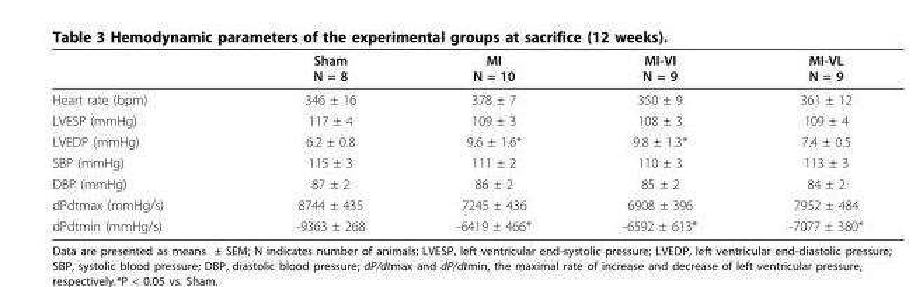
<table><thead><tr><td></td><td>Sham N = 8</td><td>MI N = 10</td><td>MI-VI N = 9</td><td>MI-VL N = 9</td></tr></thead><tbody><tr><td>Heart rate (bpm)</td><td>346 ± 16</td><td>378 ± 7</td><td>350 ± 9</td><td>361 ± 12</td></tr><tr><td>LVESP (mmHg)</td><td>117 ± 4</td><td>109 ± 3</td><td>108 ± 3</td><td>109 ± 4</td></tr><tr><td>LVEDP (mmHg)</td><td>6.2 ± 0.8</td><td>9.6 ± 1.6*</td><td>9.8 ± 1.3*</td><td>7.4 ± 0.5</td></tr><tr><td>SBP (mmHg)</td><td>115 ± 3</td><td>111 ± 2</td><td>110 ± 3</td><td>113 ± 3</td></tr><tr><td>DBP (mmHg)</td><td>87 ± 2</td><td>86 ± 2</td><td>85 ± 2</td><td>84 ± 2</td></tr><tr><td>dPdtmax (mmHg/s)</td><td>8744 ± 435</td><td>7245 ± 436</td><td>6908 ± 396</td><td>7952 ± 484</td></tr><tr><td>dPdtmin (mmHg/s)</td><td>-9363 ± 268</td><td>-6419 ± 466*</td><td>-6592 ± 613*</td><td>-7077 ± 380*</td></tr></tbody></table>